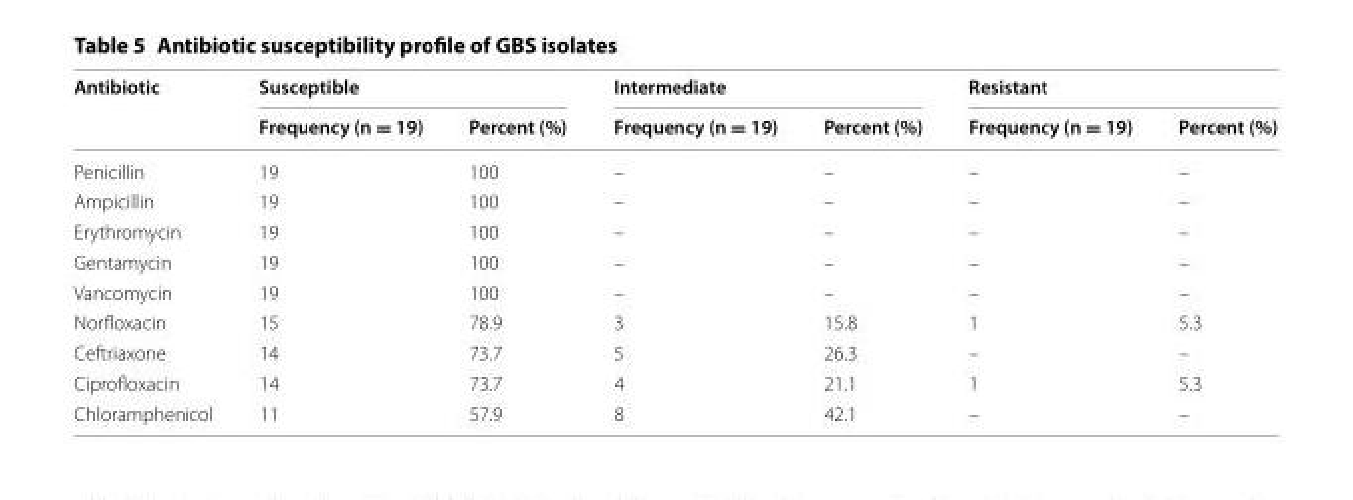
<table><thead><tr><td rowspan="2">Antibiotic</td><td colspan="2">Susceptible</td><td colspan="2">Intermediate</td><td colspan="2">Resistant</td></tr><tr><td>Frequency (n = 19)</td><td>Percent (%)</td><td>Frequency (n = 19)</td><td>Percent (%)</td><td>Frequency (n = 19)</td><td>Percent (%)</td></tr></thead><tbody><tr><td>Penicillin</td><td>19</td><td>100</td><td>–</td><td>–</td><td>–</td><td>–</td></tr><tr><td>Ampicillin</td><td>19</td><td>100</td><td>–</td><td>–</td><td>–</td><td>–</td></tr><tr><td>Erythromycin</td><td>19</td><td>100</td><td>–</td><td>–</td><td>–</td><td>–</td></tr><tr><td>Gentamycin</td><td>19</td><td>100</td><td>–</td><td>–</td><td>–</td><td>–</td></tr><tr><td>Vancomycin</td><td>19</td><td>100</td><td>–</td><td>–</td><td>–</td><td>–</td></tr><tr><td>Norfloxacin</td><td>15</td><td>78.9</td><td>3</td><td>15.8</td><td>1</td><td>5.3</td></tr><tr><td>Ceftriaxone</td><td>14</td><td>73.7</td><td>5</td><td>26.3</td><td>–</td><td>–</td></tr><tr><td>Ciprofloxacin</td><td>14</td><td>73.7</td><td>4</td><td>21.1</td><td>1</td><td>5.3</td></tr><tr><td>Chloramphenicol</td><td>11</td><td>57.9</td><td>8</td><td>42.1</td><td>–</td><td>–</td></tr></tbody></table>